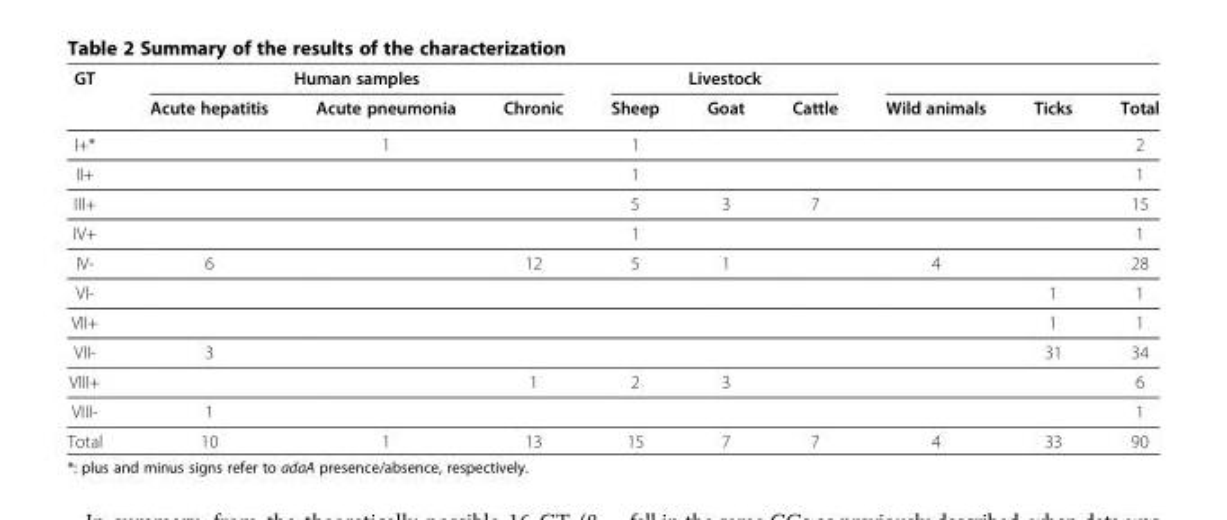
<table><thead><tr><td rowspan="2">GT</td><td colspan="3">Human samples</td><td colspan="3">Livestock</td><td rowspan="2">Wild animals</td><td rowspan="2">Ticks</td><td rowspan="2">Total</td></tr><tr><td>Acute hepatitis</td><td>Acute pneumonia</td><td>Chronic</td><td>Sheep</td><td>Goat</td><td>Cattle</td></tr></thead><tbody><tr><td>I+*</td><td></td><td>1</td><td></td><td>1</td><td></td><td></td><td></td><td></td><td>2</td></tr><tr><td>II+</td><td></td><td></td><td></td><td>1</td><td></td><td></td><td></td><td></td><td>1</td></tr><tr><td>III+</td><td></td><td></td><td></td><td>5</td><td>3</td><td>7</td><td></td><td></td><td>15</td></tr><tr><td>IV+</td><td></td><td></td><td></td><td>1</td><td></td><td></td><td></td><td></td><td>1</td></tr><tr><td>IV-</td><td>6</td><td></td><td>12</td><td>5</td><td>1</td><td></td><td>4</td><td></td><td>28</td></tr><tr><td>VI-</td><td></td><td></td><td></td><td></td><td></td><td></td><td></td><td>1</td><td>1</td></tr><tr><td>VII+</td><td></td><td></td><td></td><td></td><td></td><td></td><td></td><td>1</td><td>1</td></tr><tr><td>VII-</td><td>3</td><td></td><td></td><td></td><td></td><td></td><td></td><td>31</td><td>34</td></tr><tr><td>VIII+</td><td></td><td></td><td>1</td><td>2</td><td>3</td><td></td><td></td><td></td><td>6</td></tr><tr><td>VIII-</td><td>1</td><td></td><td></td><td></td><td></td><td></td><td></td><td></td><td>1</td></tr><tr><td>Total</td><td>10</td><td>1</td><td>13</td><td>15</td><td>7</td><td>7</td><td>4</td><td>33</td><td>90</td></tr></tbody></table>